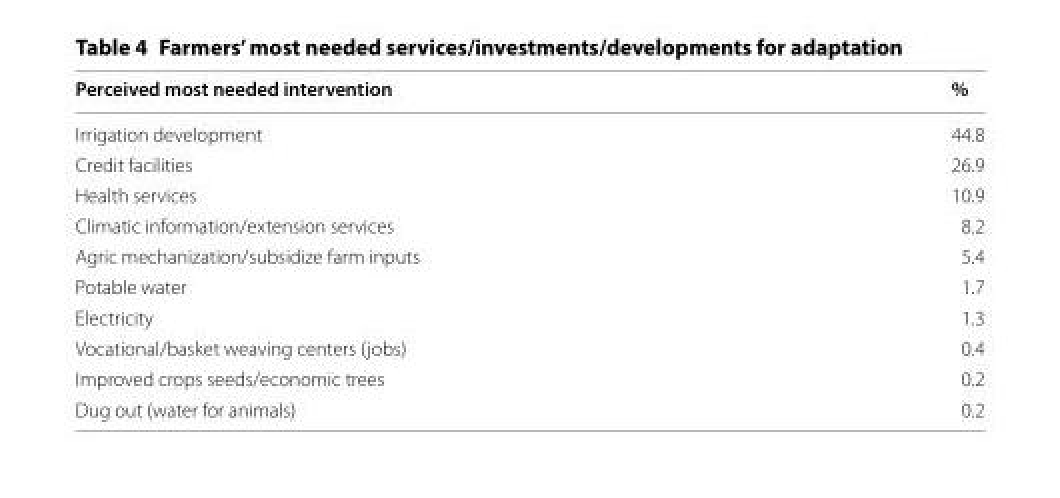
<table><thead><tr><td>Perceived most needed intervention</td><td>%</td></tr></thead><tbody><tr><td>Irrigation development</td><td>44.8</td></tr><tr><td>Credit facilities</td><td>26.9</td></tr><tr><td>Health services</td><td>10.9</td></tr><tr><td>Climatic information/extension services</td><td>8.2</td></tr><tr><td>Agric mechanization/subsidize farm inputs</td><td>5.4</td></tr><tr><td>Potable water</td><td>1.7</td></tr><tr><td>Electricity</td><td>1.3</td></tr><tr><td>Vocational/basket weaving centers (jobs)</td><td>0.4</td></tr><tr><td>Improved crops seeds/economic trees</td><td>0.2</td></tr><tr><td>Dug out (water for animals)</td><td>0.2</td></tr></tbody></table>